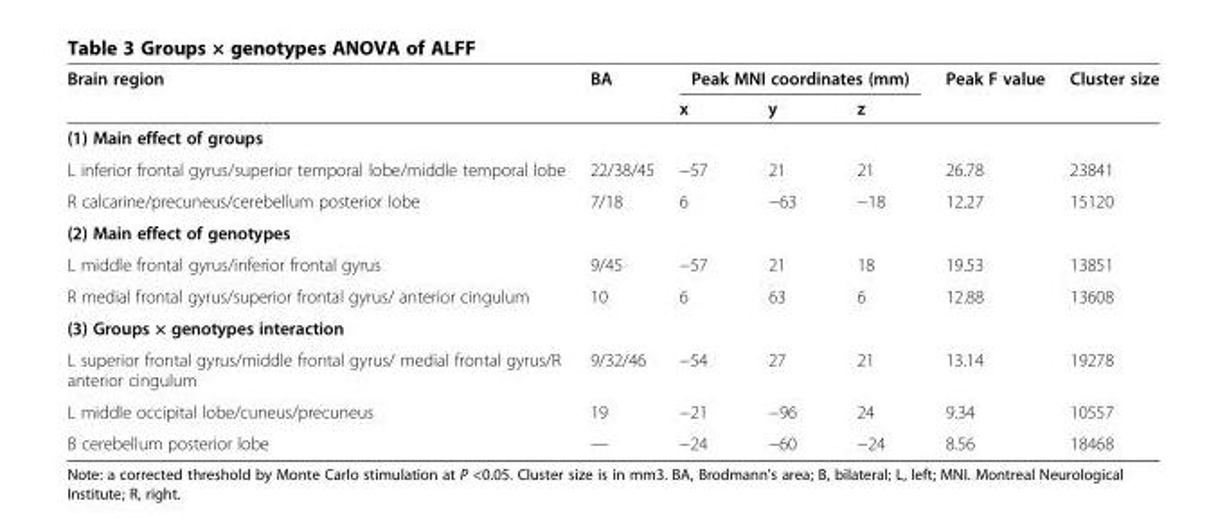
<table><thead><tr><td rowspan="2">Brain region</td><td rowspan="2">BA</td><td colspan="3">Peak MNI coordinates (mm)</td><td rowspan="2">Peak F value</td><td rowspan="2">Cluster size</td></tr><tr><td>x</td><td>y</td><td>z</td></tr></thead><tbody><tr><td colspan="7">(1) Main effect of groups</td></tr><tr><td>L inferior frontal gyrus/superior temporal lobe/middle temporal lobe</td><td>22/38/45</td><td>−57</td><td>21</td><td>21</td><td>26.78</td><td>23841</td></tr><tr><td>R calcarine/precuneus/cerebellum posterior lobe</td><td>7/18</td><td>6</td><td>−63</td><td>−18</td><td>12.27</td><td>15120</td></tr><tr><td colspan="7">(2) Main effect of genotypes</td></tr><tr><td>L middle frontal gyrus/inferior frontal gyrus</td><td>9/45</td><td>−57</td><td>21</td><td>18</td><td>19.53</td><td>13851</td></tr><tr><td>R medial frontal gyrus/superior frontal gyrus/ anterior cingulum</td><td>10</td><td>6</td><td>63</td><td>6</td><td>12.88</td><td>13608</td></tr><tr><td colspan="7">(3) Groups × genotypes interaction</td></tr><tr><td>L superior frontal gyrus/middle frontal gyrus/ medial frontal gyrus/R anterior cingulum</td><td>9/32/46</td><td>−54</td><td>27</td><td>21</td><td>13.14</td><td>19278</td></tr><tr><td>L middle occipital lobe/cuneus/precuneus</td><td>19</td><td>−21</td><td>−96</td><td>24</td><td>9.34</td><td>10557</td></tr><tr><td>B cerebellum posterior lobe</td><td>—</td><td>−24</td><td>−60</td><td>−24</td><td>8.56</td><td>18468</td></tr></tbody></table>